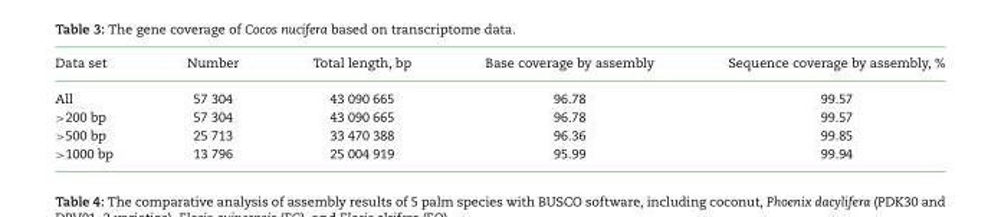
<table><thead><tr><td>Data set</td><td>Number</td><td>Total length, bp</td><td>Base coverage by assembly</td><td>Sequence coverage by assembly, %</td></tr></thead><tbody><tr><td>All</td><td>57 304</td><td>43 090 665</td><td>96.78</td><td>99.57</td></tr><tr><td>&gt;200 bp</td><td>57 304</td><td>43 090 665</td><td>96.78</td><td>99.57</td></tr><tr><td>&gt;500 bp</td><td>25 713</td><td>33 470 388</td><td>96.36</td><td>99.85</td></tr><tr><td>&gt;1000 bp</td><td>13 796</td><td>25 004 919</td><td>95.99</td><td>99.94</td></tr></tbody></table>